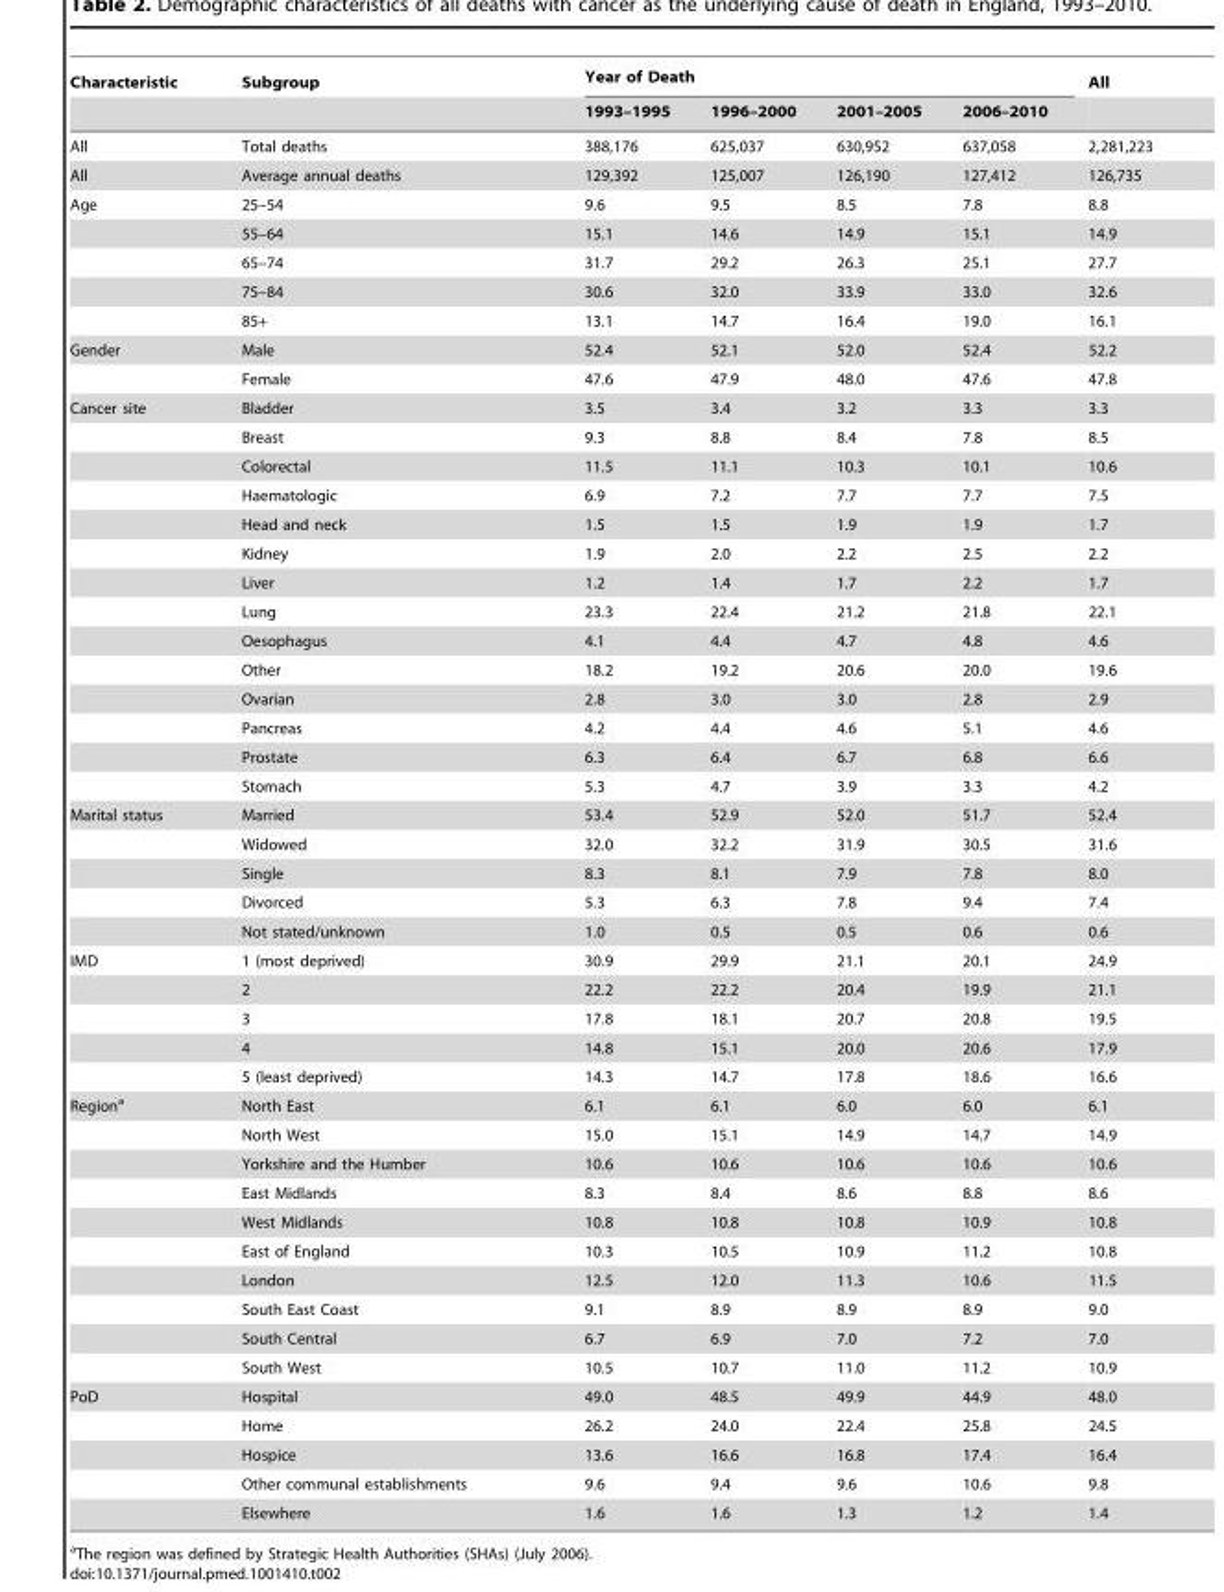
<table><thead><tr><td rowspan="2">Characteristic</td><td rowspan="2">Subgroup</td><td colspan="4">Year of Death</td><td rowspan="2">All</td></tr><tr><td>1993–1995</td><td>1996–2000</td><td>2001–2005</td><td>2006–2010</td></tr></thead><tbody><tr><td>All</td><td>Total deaths</td><td>388,176</td><td>625,037</td><td>630,952</td><td>637,058</td><td>2,281,223</td></tr><tr><td>All</td><td>Average annual deaths</td><td>129,392</td><td>125,007</td><td>126,190</td><td>127,412</td><td>126,735</td></tr><tr><td rowspan="5">Age</td><td>25–54</td><td>9.6</td><td>9.5</td><td>8.5</td><td>7.8</td><td>8.8</td></tr><tr><td>55–64</td><td>15.1</td><td>14.6</td><td>14.9</td><td>15.1</td><td>14.9</td></tr><tr><td>65–74</td><td>31.7</td><td>29.2</td><td>26.3</td><td>25.1</td><td>27.7</td></tr><tr><td>75–84</td><td>30.6</td><td>32.0</td><td>33.9</td><td>33.0</td><td>32.6</td></tr><tr><td>85+</td><td>13.1</td><td>14.7</td><td>16.4</td><td>19.0</td><td>16.1</td></tr><tr><td rowspan="2">Gender</td><td>Male</td><td>52.4</td><td>52.1</td><td>52.0</td><td>52.4</td><td>52.2</td></tr><tr><td>Female</td><td>47.6</td><td>47.9</td><td>48.0</td><td>47.6</td><td>47.8</td></tr><tr><td rowspan="14">Cancer site</td><td>Bladder</td><td>3.5</td><td>3.4</td><td>3.2</td><td>3.3</td><td>3.3</td></tr><tr><td>Breast</td><td>9.3</td><td>8.8</td><td>8.4</td><td>7.8</td><td>8.5</td></tr><tr><td>Colorectal</td><td>11.5</td><td>11.1</td><td>10.3</td><td>10.1</td><td>10.6</td></tr><tr><td>Haematologic</td><td>6.9</td><td>7.2</td><td>7.7</td><td>7.7</td><td>7.5</td></tr><tr><td>Head and neck</td><td>1.5</td><td>1.5</td><td>1.9</td><td>1.9</td><td>1.7</td></tr><tr><td>Kidney</td><td>1.9</td><td>2.0</td><td>2.2</td><td>2.5</td><td>2.2</td></tr><tr><td>Liver</td><td>1.2</td><td>1.4</td><td>1.7</td><td>2.2</td><td>1.7</td></tr><tr><td>Lung</td><td>23.3</td><td>22.4</td><td>21.2</td><td>21.8</td><td>22.1</td></tr><tr><td>Oesophagus</td><td>4.1</td><td>4.4</td><td>4.7</td><td>4.8</td><td>4.6</td></tr><tr><td>Other</td><td>18.2</td><td>19.2</td><td>20.6</td><td>20.0</td><td>19.6</td></tr><tr><td>Ovarian</td><td>2.8</td><td>3.0</td><td>3.0</td><td>2.8</td><td>2.9</td></tr><tr><td>Pancreas</td><td>4.2</td><td>4.4</td><td>4.6</td><td>5.1</td><td>4.6</td></tr><tr><td>Prostate</td><td>6.3</td><td>6.4</td><td>6.7</td><td>6.8</td><td>6.6</td></tr><tr><td>Stomach</td><td>5.3</td><td>4.7</td><td>3.9</td><td>3.3</td><td>4.2</td></tr><tr><td rowspan="5">Marital status</td><td>Married</td><td>53.4</td><td>52.9</td><td>52.0</td><td>51.7</td><td>52.4</td></tr><tr><td>Widowed</td><td>32.0</td><td>32.2</td><td>31.9</td><td>30.5</td><td>31.6</td></tr><tr><td>Single</td><td>8.3</td><td>8.1</td><td>7.9</td><td>7.8</td><td>8.0</td></tr><tr><td>Divorced</td><td>5.3</td><td>6.3</td><td>7.8</td><td>9.4</td><td>7.4</td></tr><tr><td>Not stated/unknown</td><td>1.0</td><td>0.5</td><td>0.5</td><td>0.6</td><td>0.6</td></tr><tr><td rowspan="5">IMD</td><td>1 (most deprived)</td><td>30.9</td><td>29.9</td><td>21.1</td><td>20.1</td><td>24.9</td></tr><tr><td>2</td><td>22.2</td><td>22.2</td><td>20.4</td><td>19.9</td><td>21.1</td></tr><tr><td>3</td><td>17.8</td><td>18.1</td><td>20.7</td><td>20.8</td><td>19.5</td></tr><tr><td>4</td><td>14.8</td><td>15.1</td><td>20.0</td><td>20.6</td><td>17.9</td></tr><tr><td>5 (least deprived)</td><td>14.3</td><td>14.7</td><td>17.8</td><td>18.6</td><td>16.6</td></tr><tr><td rowspan="10">Region<sup>a</sup></td><td>North East</td><td>6.1</td><td>6.1</td><td>6.0</td><td>6.0</td><td>6.1</td></tr><tr><td>North West</td><td>15.0</td><td>15.1</td><td>14.9</td><td>14.7</td><td>14.9</td></tr><tr><td>Yorkshire and the Humber</td><td>10.6</td><td>10.6</td><td>10.6</td><td>10.6</td><td>10.6</td></tr><tr><td>East Midlands</td><td>8.3</td><td>8.4</td><td>8.6</td><td>8.8</td><td>8.6</td></tr><tr><td>West Midlands</td><td>10.8</td><td>10.8</td><td>10.8</td><td>10.9</td><td>10.8</td></tr><tr><td>East of England</td><td>10.3</td><td>10.5</td><td>10.9</td><td>11.2</td><td>10.8</td></tr><tr><td>London</td><td>12.5</td><td>12.0</td><td>11.3</td><td>10.6</td><td>11.5</td></tr><tr><td>South East Coast</td><td>9.1</td><td>8.9</td><td>8.9</td><td>8.9</td><td>9.0</td></tr><tr><td>South Central</td><td>6.7</td><td>6.9</td><td>7.0</td><td>7.2</td><td>7.0</td></tr><tr><td>South West</td><td>10.5</td><td>10.7</td><td>11.0</td><td>11.2</td><td>10.9</td></tr><tr><td rowspan="5">PoD</td><td>Hospital</td><td>49.0</td><td>48.5</td><td>49.9</td><td>44.9</td><td>48.0</td></tr><tr><td>Home</td><td>26.2</td><td>24.0</td><td>22.4</td><td>25.8</td><td>24.5</td></tr><tr><td>Hospice</td><td>13.6</td><td>16.6</td><td>16.8</td><td>17.4</td><td>16.4</td></tr><tr><td>Other communal establishments</td><td>9.6</td><td>9.4</td><td>9.6</td><td>10.6</td><td>9.8</td></tr><tr><td>Elsewhere</td><td>1.6</td><td>1.6</td><td>1.3</td><td>1.2</td><td>1.4</td></tr></tbody></table>